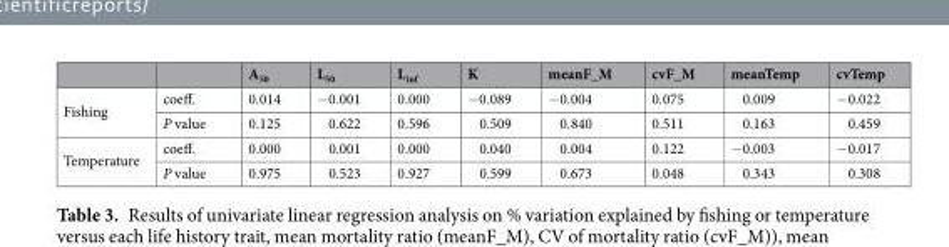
<table><thead><tr><td></td><td></td><td>A<sub>50</sub></td><td>L<sub>50</sub></td><td>L<sub>inf</sub></td><td>K</td><td>meanF_M</td><td>cvF_M</td><td>meanTemp</td><td>cvTemp</td></tr></thead><tbody><tr><td rowspan="2">Fishing</td><td>coeff.</td><td>0.014</td><td>−0.001</td><td>0.000</td><td>−0.089</td><td>−0.004</td><td>0.075</td><td>0.009</td><td>−0.022</td></tr><tr><td>P value</td><td>0.125</td><td>0.622</td><td>0.596</td><td>0.509</td><td>0.840</td><td>0.511</td><td>0.163</td><td>0.459</td></tr><tr><td rowspan="2">Temperature</td><td>coeff.</td><td>0.000</td><td>0.001</td><td>0.000</td><td>0.040</td><td>0.004</td><td>0.122</td><td>−0.003</td><td>−0.017</td></tr><tr><td>P value</td><td>0.975</td><td>0.523</td><td>0.927</td><td>0.599</td><td>0.673</td><td>0.048</td><td>0.343</td><td>0.308</td></tr></tbody></table>